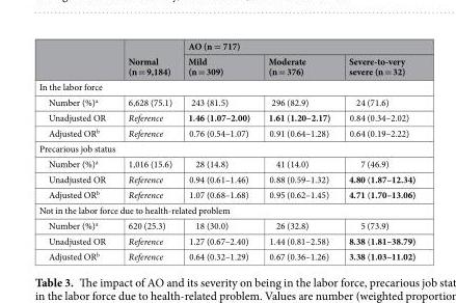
<table><thead><tr><td rowspan="2"></td><td rowspan="2">Normal (n = 9,184)</td><td colspan="3">AO (n = 717)</td></tr><tr><td>Mild (n = 309)</td><td>Moderate (n = 376)</td><td>Severe-to-very severe (n = 32)</td></tr></thead><tbody><tr><td colspan="5">In the labor force</td></tr><tr><td>Number (%)<sup>a</sup></td><td>6,628 (75.1)</td><td>243 (81.5)</td><td>296 (82.9)</td><td>24 (71.6)</td></tr><tr><td>Unadjusted OR</td><td>Reference</td><td>1.46 (1.07–2.00)</td><td>1.61 (1.20–2.17)</td><td>0.84 (0.34–2.02)</td></tr><tr><td>Adjusted OR<sup>b</sup></td><td>Reference</td><td>0.76 (0.54–1.07)</td><td>0.91 (0.64–1.28)</td><td>0.64 (0.19–2.22)</td></tr><tr><td colspan="5">Precarious job status</td></tr><tr><td>Number (%)<sup>a</sup></td><td>1,016 (15.6)</td><td>28 (14.8)</td><td>41 (14.0)</td><td>7 (46.9)</td></tr><tr><td>Unadjusted OR</td><td>Reference</td><td>0.94 (0.61–1.46)</td><td>0.88 (0.59–1.32)</td><td>4.80 (1.87–12.34)</td></tr><tr><td>Adjusted OR<sup>b</sup></td><td>Reference</td><td>1.07 (0.68–1.68)</td><td>0.95 (0.62–1.45)</td><td>4.71 (1.70–13.06)</td></tr><tr><td colspan="5">Not in the labor force due to health-related problem</td></tr><tr><td>Number (%)<sup>a</sup></td><td>620 (25.3)</td><td>18 (30.0)</td><td>26 (32.8)</td><td>5 (73.9)</td></tr><tr><td>Unadjusted OR</td><td>Reference</td><td>1.27 (0.67–2.40)</td><td>1.44 (0.81–2.58)</td><td>8.38 (1.81–38.79)</td></tr><tr><td>Adjusted OR<sup>b</sup></td><td>Reference</td><td>0.64 (0.32–1.29)</td><td>0.67 (0.36–1.26)</td><td>3.38 (1.03–11.02)</td></tr></tbody></table>